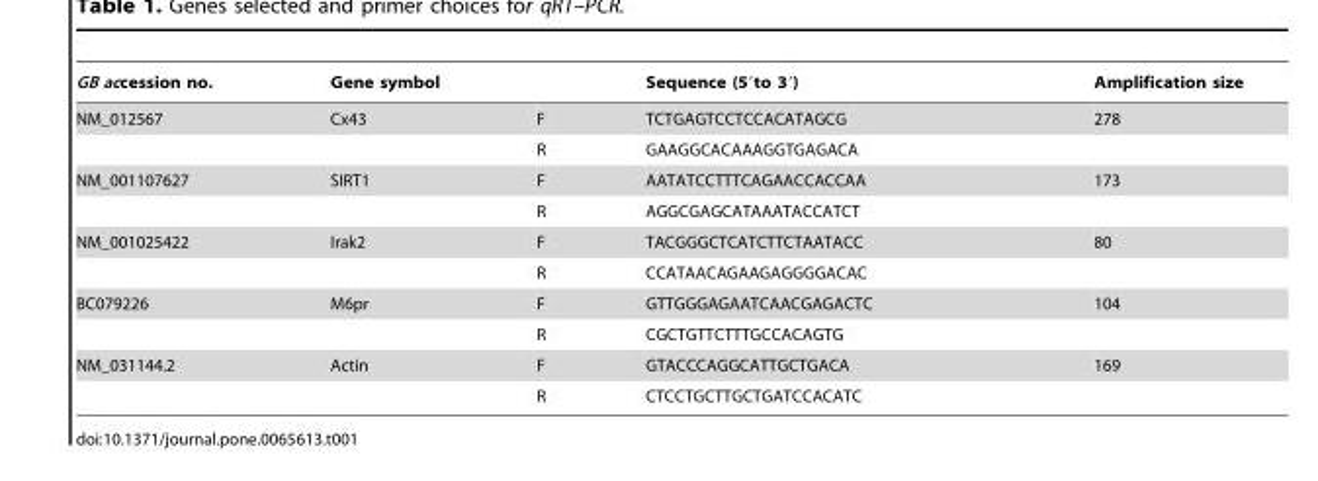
<table><thead><tr><td>GB accession no.</td><td>Gene symbol</td><td></td><td>Sequence (5′to 3′)</td><td>Amplification size</td></tr></thead><tbody><tr><td rowspan="2">NM_012567</td><td>Cx43</td><td>F</td><td>TCTGAGTCCTCCACATAGCG</td><td>278</td></tr><tr><td></td><td>R</td><td>GAAGGCACAAAGGTGAGACA</td><td></td></tr><tr><td rowspan="2">NM_001107627</td><td>SIRT1</td><td>F</td><td>AATATCCTTTCAGAACCACCAA</td><td>173</td></tr><tr><td></td><td>R</td><td>AGGCGAGCATAAATACCATCT</td><td></td></tr><tr><td rowspan="2">NM_001025422</td><td>Irak2</td><td>F</td><td>TACGGGCTCATCTTCTAATACC</td><td>80</td></tr><tr><td></td><td>R</td><td>CCATAACAGAAGAGGGGACAC</td><td></td></tr><tr><td rowspan="2">BC079226</td><td>M6pr</td><td>F</td><td>GTTGGGAGAATCAACGAGACTC</td><td>104</td></tr><tr><td></td><td>R</td><td>CGCTGTTCTTTGCCACAGTG</td><td></td></tr><tr><td rowspan="2">NM_031144.2</td><td>Actin</td><td>F</td><td>GTACCCAGGCATTGCTGACA</td><td>169</td></tr><tr><td></td><td>R</td><td>CTCCTGCTTGCTGATCCACATC</td><td></td></tr></tbody></table>